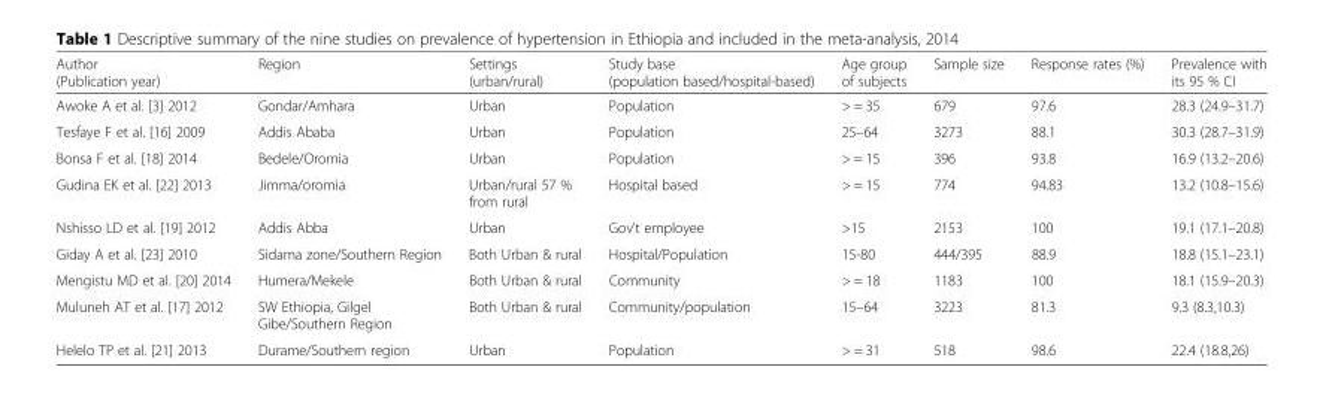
<table><thead><tr><td>Author (Publication year)</td><td>Region</td><td>Settings (urban/rural)</td><td>Study base (population based/hospital-based)</td><td>Age group of subjects</td><td>Sample size</td><td>Response rates (%)</td><td>Prevalence with its 95 % CI</td></tr></thead><tbody><tr><td>Awoke A et al. [3] 2012</td><td>Gondar/Amhara</td><td>Urban</td><td>Population</td><td>&gt; = 35</td><td>679</td><td>97.6</td><td>28.3 (24.9–31.7)</td></tr><tr><td>Tesfaye F et al. [16] 2009</td><td>Addis Ababa</td><td>Urban</td><td>Population</td><td>25–64</td><td>3273</td><td>88.1</td><td>30.3 (28.7–31.9)</td></tr><tr><td>Bonsa F et al. [18] 2014</td><td>Bedele/Oromia</td><td>Urban</td><td>Population</td><td>&gt; = 15</td><td>396</td><td>93.8</td><td>16.9 (13.2–20.6)</td></tr><tr><td>Gudina EK et al. [22] 2013</td><td>Jimma/oromia</td><td>Urban/rural 57 % from rural</td><td>Hospital based</td><td>&gt; = 15</td><td>774</td><td>94.83</td><td>13.2 (10.8–15.6)</td></tr><tr><td>Nshisso LD et al. [19] 2012</td><td>Addis Abba</td><td>Urban</td><td>Gov’t employee</td><td>&gt;15</td><td>2153</td><td>100</td><td>19.1 (17.1–20.8)</td></tr><tr><td>Giday A et al. [23] 2010</td><td>Sidama zone/Southern Region</td><td>Both Urban &amp; rural</td><td>Hospital/Population</td><td>15-80</td><td>444/395</td><td>88.9</td><td>18.8 (15.1–23.1)</td></tr><tr><td>Mengistu MD et al. [20] 2014</td><td>Humera/Mekele</td><td>Both Urban &amp; rural</td><td>Community</td><td>&gt; = 18</td><td>1183</td><td>100</td><td>18.1 (15.9–20.3)</td></tr><tr><td>Muluneh AT et al. [17] 2012</td><td>SW Ethiopia, Gilgel Gibe/Southern Region</td><td>Both Urban &amp; rural</td><td>Community/population</td><td>15–64</td><td>3223</td><td>81.3</td><td>9.3 (8.3,10.3)</td></tr><tr><td>Helelo TP et al. [21] 2013</td><td>Durame/Southern region</td><td>Urban</td><td>Population</td><td>&gt; = 31</td><td>518</td><td>98.6</td><td>22.4 (18.8,26)</td></tr></tbody></table>